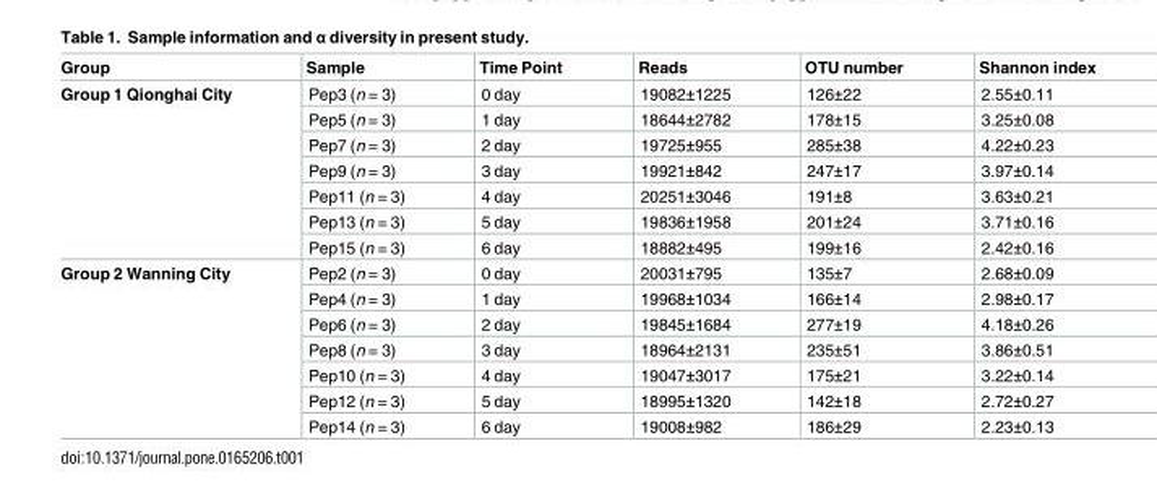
<table><thead><tr><td>Group</td><td>Sample</td><td>Time Point</td><td>Reads</td><td>OTU number</td><td>Shannon index</td></tr></thead><tbody><tr><td rowspan="7">Group 1 Qionghai City</td><td>Pep3 (n = 3)</td><td>0 day</td><td>19082±1225</td><td>126±22</td><td>2.55±0.11</td></tr><tr><td>Pep5 (n = 3)</td><td>1 day</td><td>18644±2782</td><td>178±15</td><td>3.25±0.08</td></tr><tr><td>Pep7 (n = 3)</td><td>2 day</td><td>19725±955</td><td>285±38</td><td>4.22±0.23</td></tr><tr><td>Pep9 (n = 3)</td><td>3 day</td><td>19921±842</td><td>247±17</td><td>3.97±0.14</td></tr><tr><td>Pep11 (n = 3)</td><td>4 day</td><td>20251±3046</td><td>191±8</td><td>3.63±0.21</td></tr><tr><td>Pep13 (n = 3)</td><td>5 day</td><td>19836±1958</td><td>201±24</td><td>3.71±0.16</td></tr><tr><td>Pep15 (n = 3)</td><td>6 day</td><td>18882±495</td><td>199±16</td><td>2.42±0.16</td></tr><tr><td rowspan="7">Group 2 Wanning City</td><td>Pep2 (n = 3)</td><td>0 day</td><td>20031±795</td><td>135±7</td><td>2.68±0.09</td></tr><tr><td>Pep4 (n = 3)</td><td>1 day</td><td>19968±1034</td><td>166±14</td><td>2.98±0.17</td></tr><tr><td>Pep6 (n = 3)</td><td>2 day</td><td>19845±1684</td><td>277±19</td><td>4.18±0.26</td></tr><tr><td>Pep8 (n = 3)</td><td>3 day</td><td>18964±2131</td><td>235±51</td><td>3.86±0.51</td></tr><tr><td>Pep10 (n = 3)</td><td>4 day</td><td>19047±3017</td><td>175±21</td><td>3.22±0.14</td></tr><tr><td>Pep12 (n = 3)</td><td>5 day</td><td>18995±1320</td><td>142±18</td><td>2.72±0.27</td></tr><tr><td>Pep14 (n = 3)</td><td>6 day</td><td>19008±982</td><td>186±29</td><td>2.23±0.13</td></tr></tbody></table>